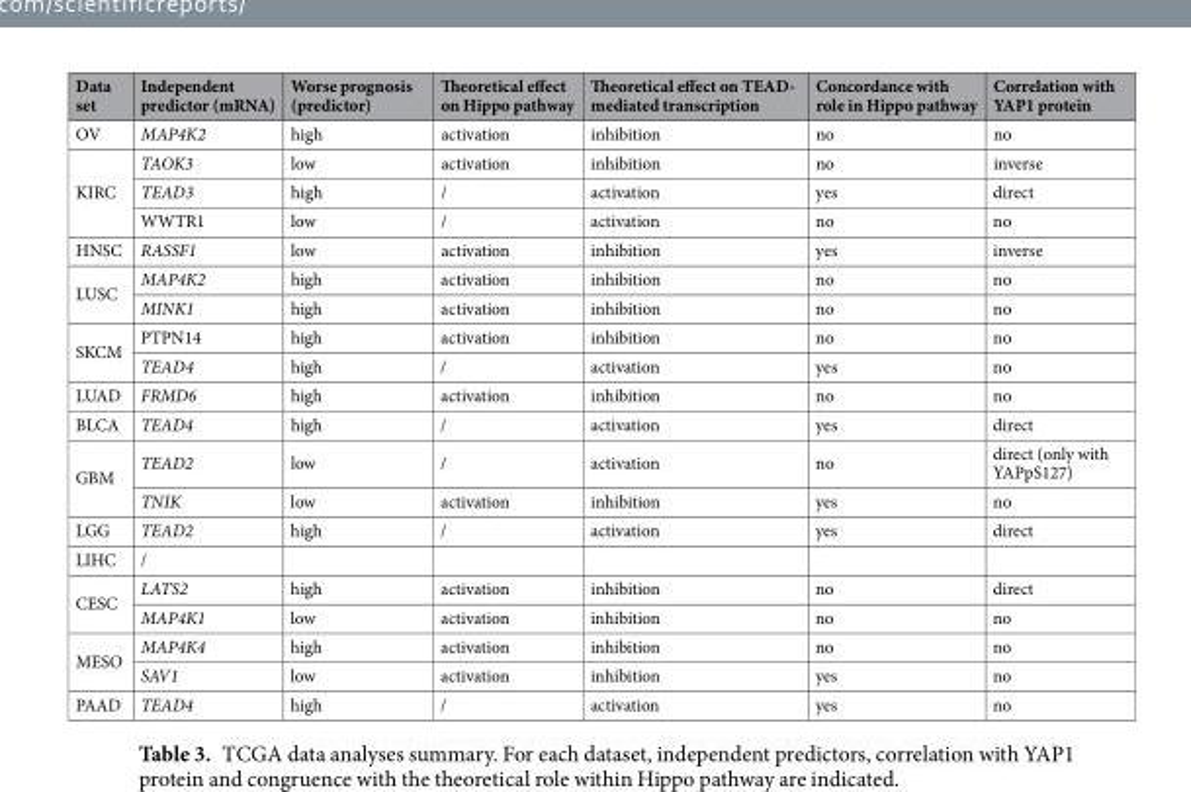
<table><thead><tr><td>Data set</td><td>Independent predictor (mRNA)</td><td>Worse prognosis (predictor)</td><td>Theoretical effect on Hippo pathway</td><td>Theoretical effect on TEAD- mediated transcription</td><td>Concordance with role in Hippo pathway</td><td>Correlation with YAP1 protein</td></tr></thead><tbody><tr><td>OV</td><td>MAP4K2</td><td>high</td><td>activation</td><td>inhibition</td><td>no</td><td>no</td></tr><tr><td rowspan="3">KIRC</td><td>TAOK3</td><td>low</td><td>activation</td><td>inhibition</td><td>no</td><td>inverse</td></tr><tr><td>TEAD3</td><td>high</td><td>/</td><td>activation</td><td>yes</td><td>direct</td></tr><tr><td>WWTR1</td><td>low</td><td>/</td><td>activation</td><td>no</td><td>no</td></tr><tr><td>HNSC</td><td>RASSF1</td><td>low</td><td>activation</td><td>inhibition</td><td>yes</td><td>inverse</td></tr><tr><td rowspan="2">LUSC</td><td>MAP4K2</td><td>high</td><td>activation</td><td>inhibition</td><td>no</td><td>no</td></tr><tr><td>MINK1</td><td>high</td><td>activation</td><td>inhibition</td><td>no</td><td>no</td></tr><tr><td rowspan="2">SKCM</td><td>PTPN14</td><td>high</td><td>activation</td><td>inhibition</td><td>no</td><td>no</td></tr><tr><td>TEAD4</td><td>high</td><td>/</td><td>activation</td><td>yes</td><td>no</td></tr><tr><td>LUAD</td><td>FRMD6</td><td>high</td><td>activation</td><td>inhibition</td><td>no</td><td>no</td></tr><tr><td>BLCA</td><td>TEAD4</td><td>high</td><td>/</td><td>activation</td><td>yes</td><td>direct</td></tr><tr><td rowspan="2">GBM</td><td>TEAD2</td><td>low</td><td>/</td><td>activation</td><td>no</td><td>direct (only with YAPpS127)</td></tr><tr><td>TNIK</td><td>low</td><td>activation</td><td>inhibition</td><td>yes</td><td>no</td></tr><tr><td>LGG</td><td>TEAD2</td><td>high</td><td>/</td><td>activation</td><td>yes</td><td>direct</td></tr><tr><td>LIHC</td><td>/</td><td></td><td></td><td></td><td></td><td></td></tr><tr><td rowspan="2">CESC</td><td>LATS2</td><td>high</td><td>activation</td><td>inhibition</td><td>no</td><td>direct</td></tr><tr><td>MAP4K1</td><td>low</td><td>activation</td><td>inhibition</td><td>no</td><td>no</td></tr><tr><td rowspan="2">MESO</td><td>MAP4K4</td><td>high</td><td>activation</td><td>inhibition</td><td>no</td><td>no</td></tr><tr><td>SAV1</td><td>low</td><td>activation</td><td>inhibition</td><td>yes</td><td>no</td></tr><tr><td>PAAD</td><td>TEAD4</td><td>high</td><td>/</td><td>activation</td><td>yes</td><td>no</td></tr></tbody></table>